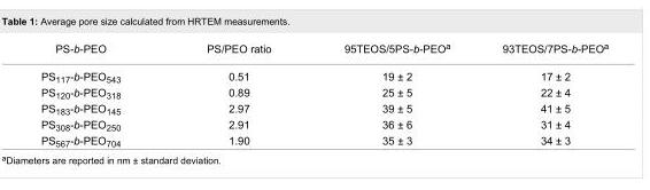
<table><tbody><tr><td>PS-b-PEO</td><td>PS/PEO ratio</td><td>95TEOS/5PS-b-PEO<sup>a</sup></td><td>93TEOS/7PS-b-PEO<sup>a</sup></td></tr><tr><td>PS<sub>117</sub>-b-PEO<sub>543</sub></td><td>0.51</td><td>19 ± 2</td><td>17 ± 2</td></tr><tr><td>PS<sub>120</sub>-b-PEO<sub>318</sub></td><td>0.89</td><td>25 ± 5</td><td>22 ± 4</td></tr><tr><td>PS<sub>183</sub>-b-PEO<sub>145</sub></td><td>2.97</td><td>39 ± 5</td><td>41 ± 5</td></tr><tr><td>PS<sub>308</sub>-b-PEO<sub>250</sub></td><td>2.91</td><td>36 ± 6</td><td>31 ± 4</td></tr><tr><td>PS<sub>567</sub>-b-PEO<sub>704</sub></td><td>1.90</td><td>35 ± 3</td><td>34 ± 3</td></tr></tbody></table>